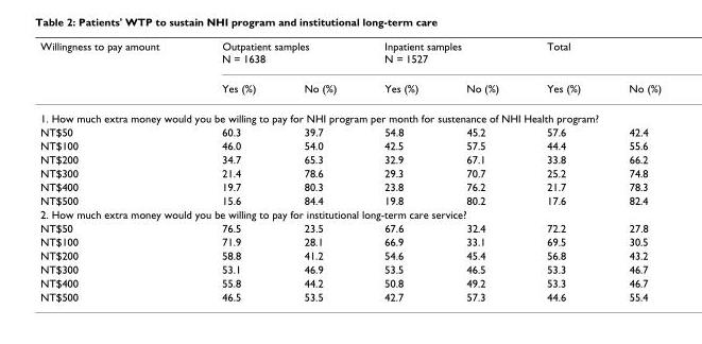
<table><thead><tr><td rowspan="2">Willingness to pay amount</td><td colspan="2">Outpatient samples N = 1638</td><td colspan="2">Inpatient samples N = 1527</td><td colspan="2">Total</td></tr><tr><td>Yes (%)</td><td>No (%)</td><td>Yes (%)</td><td>No (%)</td><td>Yes (%)</td><td>No (%)</td></tr></thead><tbody><tr><td colspan="7">1. How much extra money would you be willing to pay for NHI program per month for sustenance of NHI Health program?</td></tr><tr><td>NT$50</td><td>60.3</td><td>39.7</td><td>54.8</td><td>45.2</td><td>57.6</td><td>42.4</td></tr><tr><td>NT$100</td><td>46.0</td><td>54.0</td><td>42.5</td><td>57.5</td><td>44.4</td><td>55.6</td></tr><tr><td>NT$200</td><td>34.7</td><td>65.3</td><td>32.9</td><td>67.1</td><td>33.8</td><td>66.2</td></tr><tr><td>NT$300</td><td>21.4</td><td>78.6</td><td>29.3</td><td>70.7</td><td>25.2</td><td>74.8</td></tr><tr><td>NT$400</td><td>19.7</td><td>80.3</td><td>23.8</td><td>76.2</td><td>21.7</td><td>78.3</td></tr><tr><td>NT$500</td><td>15.6</td><td>84.4</td><td>19.8</td><td>80.2</td><td>17.6</td><td>82.4</td></tr><tr><td colspan="7">2. How much extra money would you be willing to pay for institutional long-term care service?</td></tr><tr><td>NT$50</td><td>76.5</td><td>23.5</td><td>67.6</td><td>32.4</td><td>72.2</td><td>27.8</td></tr><tr><td>NT$100</td><td>71.9</td><td>28.1</td><td>66.9</td><td>33.1</td><td>69.5</td><td>30.5</td></tr><tr><td>NT$200</td><td>58.8</td><td>41.2</td><td>54.6</td><td>45.4</td><td>56.8</td><td>43.2</td></tr><tr><td>NT$300</td><td>53.1</td><td>46.9</td><td>53.5</td><td>46.5</td><td>53.3</td><td>46.7</td></tr><tr><td>NT$400</td><td>55.8</td><td>44.2</td><td>50.8</td><td>49.2</td><td>53.3</td><td>46.7</td></tr><tr><td>NT$500</td><td>46.5</td><td>53.5</td><td>42.7</td><td>57.3</td><td>44.6</td><td>55.4</td></tr></tbody></table>